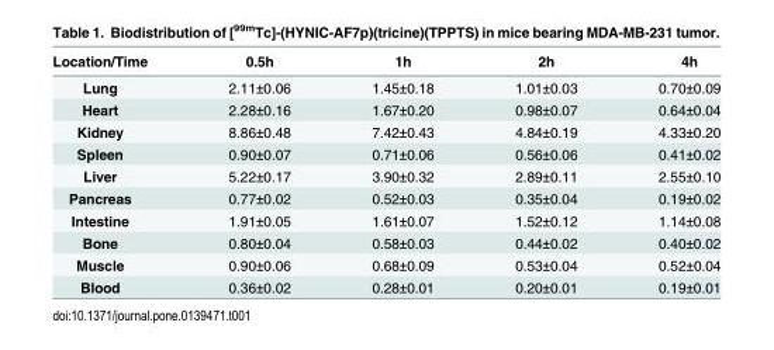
<table><thead><tr><td>Location/Time</td><td>0.5h</td><td>1h</td><td>2h</td><td>4h</td></tr></thead><tbody><tr><td>Lung</td><td>2.11±0.06</td><td>1.45±0.18</td><td>1.01±0.03</td><td>0.70±0.09</td></tr><tr><td>Heart</td><td>2.28±0.16</td><td>1.67±0.20</td><td>0.98±0.07</td><td>0.64±0.04</td></tr><tr><td>Kidney</td><td>8.86±0.48</td><td>7.42±0.43</td><td>4.84±0.19</td><td>4.33±0.20</td></tr><tr><td>Spleen</td><td>0.90±0.07</td><td>0.71±0.06</td><td>0.56±0.06</td><td>0.41±0.02</td></tr><tr><td>Liver</td><td>5.22±0.17</td><td>3.90±0.32</td><td>2.89±0.11</td><td>2.55±0.10</td></tr><tr><td>Pancreas</td><td>0.77±0.02</td><td>0.52±0.03</td><td>0.35±0.04</td><td>0.19±0.02</td></tr><tr><td>Intestine</td><td>1.91±0.05</td><td>1.61±0.07</td><td>1.52±0.12</td><td>1.14±0.08</td></tr><tr><td>Bone</td><td>0.80±0.04</td><td>0.58±0.03</td><td>0.44±0.02</td><td>0.40±0.02</td></tr><tr><td>Muscle</td><td>0.90±0.06</td><td>0.68±0.09</td><td>0.53±0.04</td><td>0.52±0.04</td></tr><tr><td>Blood</td><td>0.36±0.02</td><td>0.28±0.01</td><td>0.20±0.01</td><td>0.19±0.01</td></tr></tbody></table>